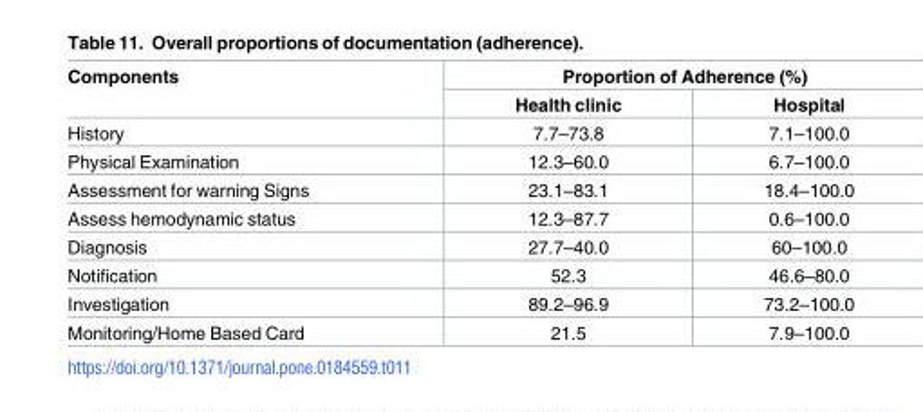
<table><thead><tr><td rowspan="2">Components</td><td colspan="2">Proportion of Adherence (%)</td></tr><tr><td>Health clinic</td><td>Hospital</td></tr></thead><tbody><tr><td>History</td><td>7.7–73.8</td><td>7.1–100.0</td></tr><tr><td>Physical Examination</td><td>12.3–60.0</td><td>6.7–100.0</td></tr><tr><td>Assessment for warning Signs</td><td>23.1–83.1</td><td>18.4–100.0</td></tr><tr><td>Assess hemodynamic status</td><td>12.3–87.7</td><td>0.6–100.0</td></tr><tr><td>Diagnosis</td><td>27.7–40.0</td><td>60–100.0</td></tr><tr><td>Notification</td><td>52.3</td><td>46.6–80.0</td></tr><tr><td>Investigation</td><td>89.2–96.9</td><td>73.2–100.0</td></tr><tr><td>Monitoring/Home Based Card</td><td>21.5</td><td>7.9–100.0</td></tr></tbody></table>